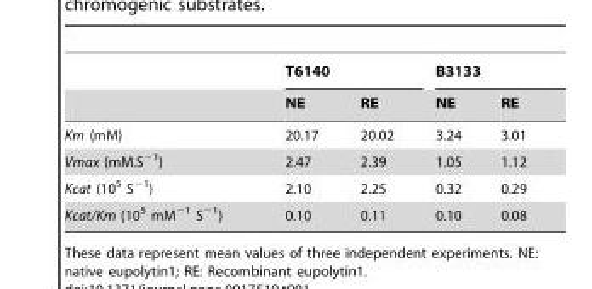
<table><thead><tr><td rowspan="2"></td><td colspan="2">T6140</td><td colspan="2">B3133</td></tr><tr><td>NE</td><td>RE</td><td>NE</td><td>RE</td></tr></thead><tbody><tr><td>Km (mM)</td><td>20.17</td><td>20.02</td><td>3.24</td><td>3.01</td></tr><tr><td>Vmax (mM.S<sup>−1</sup>)</td><td>2.47</td><td>2.39</td><td>1.05</td><td>1.12</td></tr><tr><td>Kcat (10<sup>5</sup> S<sup>−1</sup>)</td><td>2.10</td><td>2.25</td><td>0.32</td><td>0.29</td></tr><tr><td>Kcat/Km (10<sup>5</sup> mM<sup>−1</sup> S<sup>−1</sup>)</td><td>0.10</td><td>0.11</td><td>0.10</td><td>0.08</td></tr></tbody></table>